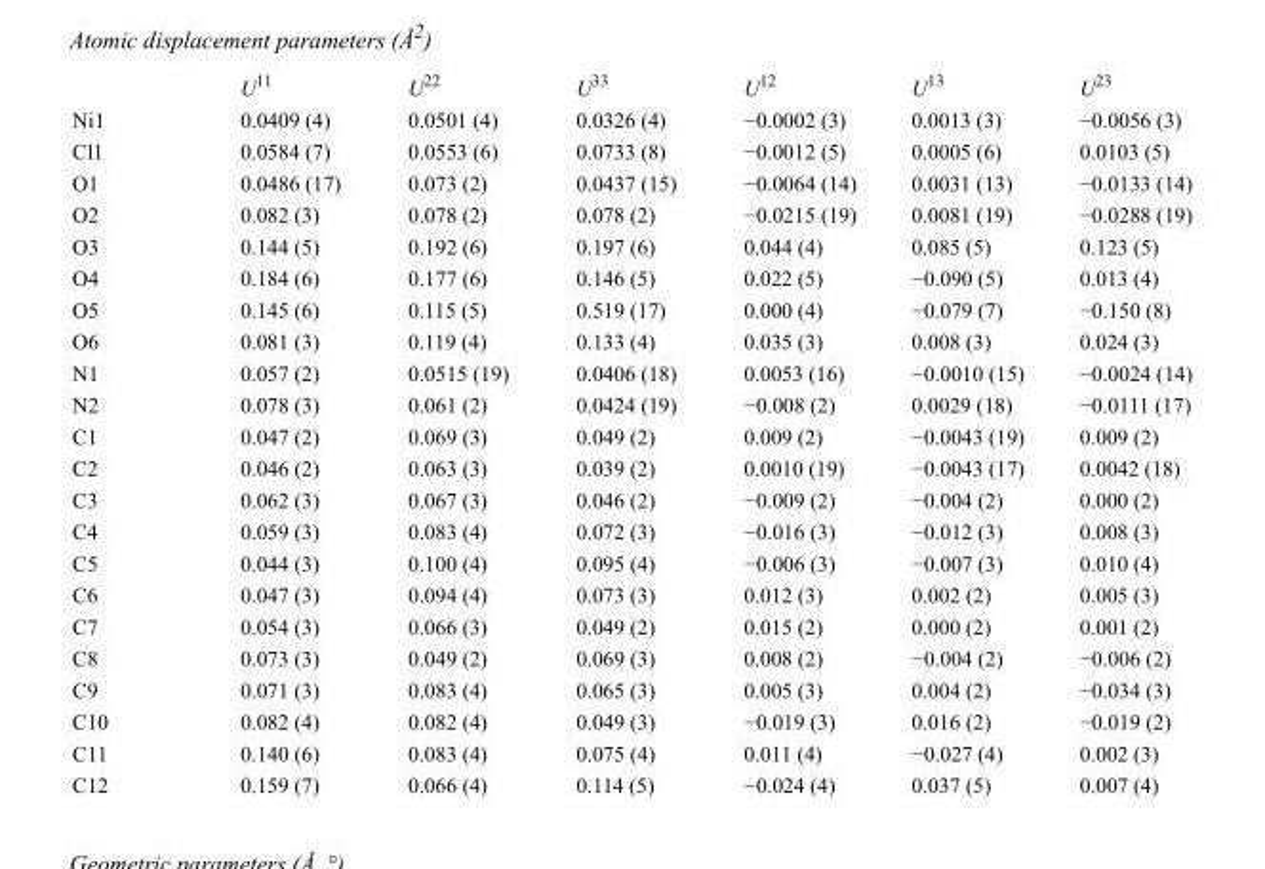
<table><thead><tr><td></td><td>U<sup>11</sup></td><td>U<sup>22</sup></td><td>U<sup>33</sup></td><td>U<sup>12</sup></td><td>U<sup>13</sup></td><td>U<sup>23</sup></td></tr></thead><tbody><tr><td>Ni1</td><td>0.0409 (4)</td><td>0.0501 (4)</td><td>0.0326 (4)</td><td>−0.0002 (3)</td><td>0.0013 (3)</td><td>−0.0056 (3)</td></tr><tr><td>Cl1</td><td>0.0584 (7)</td><td>0.0553 (6)</td><td>0.0733 (8)</td><td>−0.0012 (5)</td><td>0.0005 (6)</td><td>0.0103 (5)</td></tr><tr><td>O1</td><td>0.0486 (17)</td><td>0.073 (2)</td><td>0.0437 (15)</td><td>−0.0064 (14)</td><td>0.0031 (13)</td><td>−0.0133 (14)</td></tr><tr><td>O2</td><td>0.082 (3)</td><td>0.078 (2)</td><td>0.078 (2)</td><td>−0.0215 (19)</td><td>0.0081 (19)</td><td>−0.0288 (19)</td></tr><tr><td>O3</td><td>0.144 (5)</td><td>0.192 (6)</td><td>0.197 (6)</td><td>0.044 (4)</td><td>0.085 (5)</td><td>0.123 (5)</td></tr><tr><td>O4</td><td>0.184 (6)</td><td>0.177 (6)</td><td>0.146 (5)</td><td>0.022 (5)</td><td>−0.090 (5)</td><td>0.013 (4)</td></tr><tr><td>O5</td><td>0.145 (6)</td><td>0.115 (5)</td><td>0.519 (17)</td><td>0.000 (4)</td><td>−0.079 (7)</td><td>−0.150 (8)</td></tr><tr><td>O6</td><td>0.081 (3)</td><td>0.119 (4)</td><td>0.133 (4)</td><td>0.035 (3)</td><td>0.008 (3)</td><td>0.024 (3)</td></tr><tr><td>N1</td><td>0.057 (2)</td><td>0.0515 (19)</td><td>0.0406 (18)</td><td>0.0053 (16)</td><td>−0.0010 (15)</td><td>−0.0024 (14)</td></tr><tr><td>N2</td><td>0.078 (3)</td><td>0.061 (2)</td><td>0.0424 (19)</td><td>−0.008 (2)</td><td>0.0029 (18)</td><td>−0.0111 (17)</td></tr><tr><td>C1</td><td>0.047 (2)</td><td>0.069 (3)</td><td>0.049 (2)</td><td>0.009 (2)</td><td>−0.0043 (19)</td><td>0.009 (2)</td></tr><tr><td>C2</td><td>0.046 (2)</td><td>0.063 (3)</td><td>0.039 (2)</td><td>0.0010 (19)</td><td>−0.0043 (17)</td><td>0.0042 (18)</td></tr><tr><td>C3</td><td>0.062 (3)</td><td>0.067 (3)</td><td>0.046 (2)</td><td>−0.009 (2)</td><td>−0.004 (2)</td><td>0.000 (2)</td></tr><tr><td>C4</td><td>0.059 (3)</td><td>0.083 (4)</td><td>0.072 (3)</td><td>−0.016 (3)</td><td>−0.012 (3)</td><td>0.008 (3)</td></tr><tr><td>C5</td><td>0.044 (3)</td><td>0.100 (4)</td><td>0.095 (4)</td><td>−0.006 (3)</td><td>−0.007 (3)</td><td>0.010 (4)</td></tr><tr><td>C6</td><td>0.047 (3)</td><td>0.094 (4)</td><td>0.073 (3)</td><td>0.012 (3)</td><td>0.002 (2)</td><td>0.005 (3)</td></tr><tr><td>C7</td><td>0.054 (3)</td><td>0.066 (3)</td><td>0.049 (2)</td><td>0.015 (2)</td><td>0.000 (2)</td><td>0.001 (2)</td></tr><tr><td>C8</td><td>0.073 (3)</td><td>0.049 (2)</td><td>0.069 (3)</td><td>0.008 (2)</td><td>−0.004 (2)</td><td>−0.006 (2)</td></tr><tr><td>C9</td><td>0.071 (3)</td><td>0.083 (4)</td><td>0.065 (3)</td><td>0.005 (3)</td><td>0.004 (2)</td><td>−0.034 (3)</td></tr><tr><td>C10</td><td>0.082 (4)</td><td>0.082 (4)</td><td>0.049 (3)</td><td>−0.019 (3)</td><td>0.016 (2)</td><td>−0.019 (2)</td></tr><tr><td>C11</td><td>0.140 (6)</td><td>0.083 (4)</td><td>0.075 (4)</td><td>0.011 (4)</td><td>−0.027 (4)</td><td>0.002 (3)</td></tr><tr><td>C12</td><td>0.159 (7)</td><td>0.066 (4)</td><td>0.114 (5)</td><td>−0.024 (4)</td><td>0.037 (5)</td><td>0.007 (4)</td></tr></tbody></table>